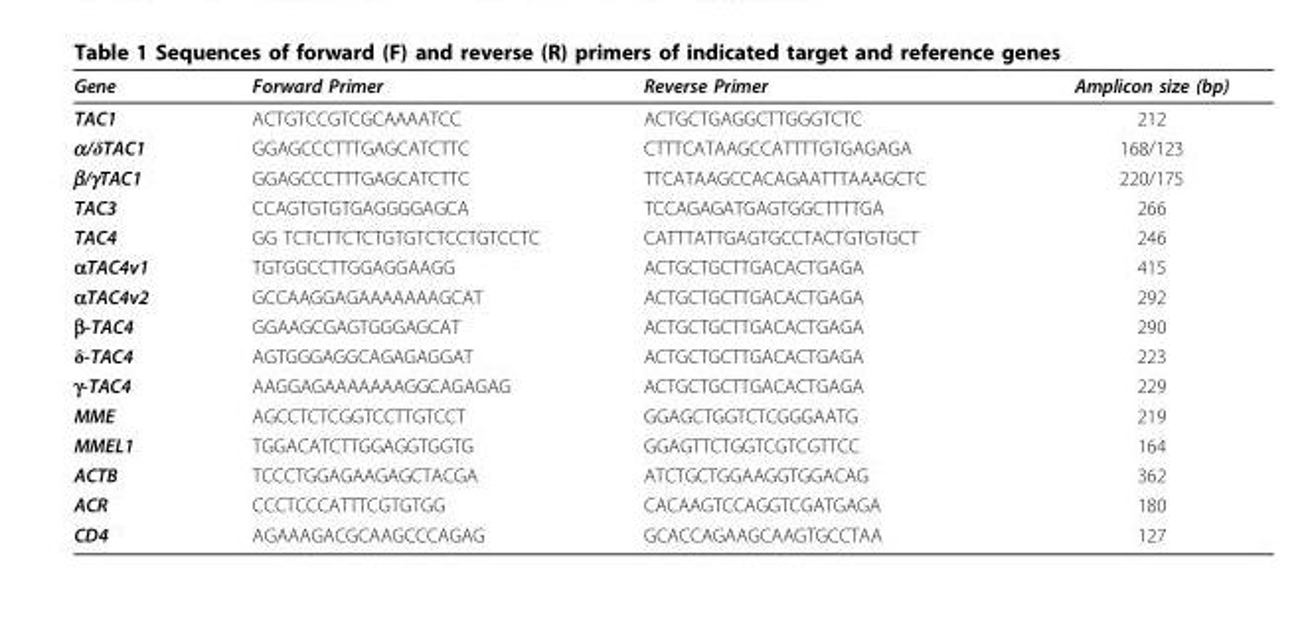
<table><thead><tr><td>Gene</td><td>Forward Primer</td><td>Reverse Primer</td><td>Amplicon size (bp)</td></tr></thead><tbody><tr><td>TAC1</td><td>ACTGTCCGTCGCAAAATCC</td><td>ACTGCTGAGGCTTGGGTCTC</td><td>212</td></tr><tr><td>α/δTAC1</td><td>GGAGCCCTTTGAGCATCTTC</td><td>CTTTCATAAGCCATTTTGTGAGAGA</td><td>168/123</td></tr><tr><td>β/γTAC1</td><td>GGAGCCCTTTGAGCATCTTC</td><td>TTCATAAGCCACAGAATTTAAAGCTC</td><td>220/175</td></tr><tr><td>TAC3</td><td>CCAGTGTGTGAGGGGAGCA</td><td>TCCAGAGATGAGTGGCTTTTGA</td><td>266</td></tr><tr><td>TAC4</td><td>GG TCTCTTCTCTGTGTCTCCTGTCCTC</td><td>CATTTATTGAGTGCCTACTGTGTGCT</td><td>246</td></tr><tr><td>αTAC4v1</td><td>TGTGGCCTTGGAGGAAGG</td><td>ACTGCTGCTTGACACTGAGA</td><td>415</td></tr><tr><td>αTAC4v2</td><td>GCCAAGGAGAAAAAAAGCAT</td><td>ACTGCTGCTTGACACTGAGA</td><td>292</td></tr><tr><td>β-TAC4</td><td>GGAAGCGAGTGGGAGCAT</td><td>ACTGCTGCTTGACACTGAGA</td><td>290</td></tr><tr><td>δ-TAC4</td><td>AGTGGGAGGCAGAGAGGAT</td><td>ACTGCTGCTTGACACTGAGA</td><td>223</td></tr><tr><td>γ-TAC4</td><td>AAGGAGAAAAAAAGGCAGAGAG</td><td>ACTGCTGCTTGACACTGAGA</td><td>229</td></tr><tr><td>MME</td><td>AGCCTCTCGGTCCTTGTCCT</td><td>GGAGCTGGTCTCGGGAATG</td><td>219</td></tr><tr><td>MMEL1</td><td>TGGACATCTTGGAGGTGGTG</td><td>GGAGTTCTGGTCGTCGTTCC</td><td>164</td></tr><tr><td>ACTB</td><td>TCCCTGGAGAAGAGCTACGA</td><td>ATCTGCTGGAAGGTGGACAG</td><td>362</td></tr><tr><td>ACR</td><td>CCCTCCCATTTCGTGTGG</td><td>CACAAGTCCAGGTCGATGAGA</td><td>180</td></tr><tr><td>CD4</td><td>AGAAAGACGCAAGCCCAGAG</td><td>GCACCAGAAGCAAGTGCCTAA</td><td>127</td></tr></tbody></table>